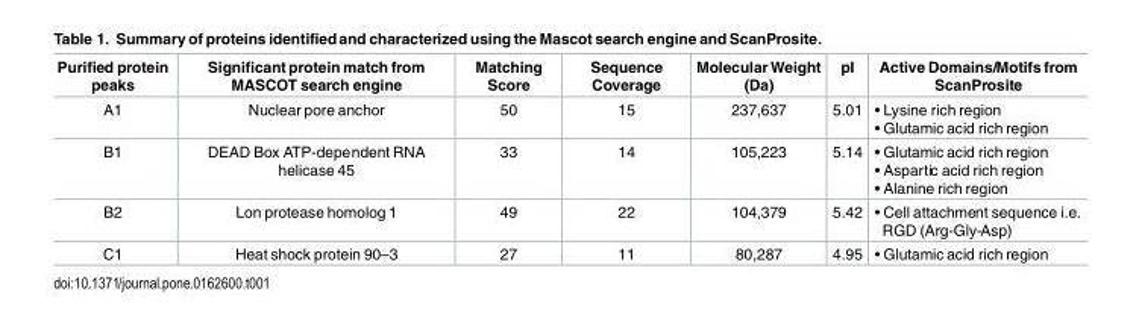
<table><thead><tr><td>Purified protein peaks</td><td>Significant protein match from MASCOT search engine</td><td>Matching Score</td><td>Sequence Coverage</td><td>Molecular Weight (Da)</td><td>pI</td><td>Active Domains/Motifs from ScanProsite</td></tr></thead><tbody><tr><td>A1</td><td>Nuclear pore anchor</td><td>50</td><td>15</td><td>237,637</td><td>5.01</td><td>• Lysine rich region • Glutamic acid rich region</td></tr><tr><td>B1</td><td>DEAD Box ATP-dependent RNA helicase 45</td><td>33</td><td>14</td><td>105,223</td><td>5.14</td><td>• Glutamic acid rich region • Aspartic acid rich region • Alanine rich region</td></tr><tr><td>B2</td><td>Lon protease homolog 1</td><td>49</td><td>22</td><td>104,379</td><td>5.42</td><td>• Cell attachment sequence i.e. RGD (Arg-Gly-Asp)</td></tr><tr><td>C1</td><td>Heat shock protein 90–3</td><td>27</td><td>11</td><td>80,287</td><td>4.95</td><td>• Glutamic acid rich region</td></tr></tbody></table>